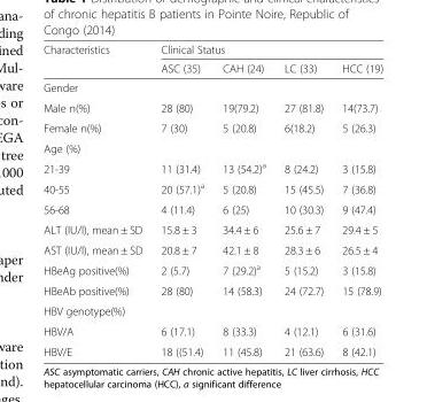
<table><thead><tr><td rowspan="2">Characteristics</td><td colspan="4">Clinical Status</td></tr><tr><td>ASC (35)</td><td>CAH (24)</td><td>LC (33)</td><td>HCC (19)</td></tr></thead><tbody><tr><td colspan="5">Gender</td></tr><tr><td>Male n(%)</td><td>28 (80)</td><td>19(79.2)</td><td>27 (81.8)</td><td>14(73.7)</td></tr><tr><td>Female n(%)</td><td>7 (30)</td><td>5 (20.8)</td><td>6(18.2)</td><td>5 (26.3)</td></tr><tr><td colspan="5">Age (%)</td></tr><tr><td>21-39</td><td>11 (31.4)</td><td>13 (54.2)<sup>a</sup></td><td>8 (24.2)</td><td>3 (15.8)</td></tr><tr><td>40-55</td><td>20 (57.1)<sup>a</sup></td><td>5 (20.8)</td><td>15 (45.5)</td><td>7 (36.8)</td></tr><tr><td>56-68</td><td>4 (11.4)</td><td>6 (25)</td><td>10 (30.3)</td><td>9 (47.4)</td></tr><tr><td>ALT (IU/l), mean ± SD</td><td>15.8 ± 3</td><td>34.4 ± 6</td><td>25.6 ± 7</td><td>29.4 ± 5</td></tr><tr><td>AST (IU/l), mean ± SD</td><td>20.8 ± 7</td><td>42.1 ± 8</td><td>28.3 ± 6</td><td>26.5 ± 4</td></tr><tr><td>HBeAg positive(%)</td><td>2 (5.7)</td><td>7 (29.2)<sup>a</sup></td><td>5 (15.2)</td><td>3 (15.8)</td></tr><tr><td>HBeAb positive(%)</td><td>28 (80)</td><td>14 (58.3)</td><td>24 (72.7)</td><td>15 (78.9)</td></tr><tr><td colspan="5">HBV genotype(%)</td></tr><tr><td>HBV/A</td><td>6 (17.1)</td><td>8 (33.3)</td><td>4 (12.1)</td><td>6 (31.6)</td></tr><tr><td>HBV/E</td><td>18 ((51.4)</td><td>11 (45.8)</td><td>21 (63.6)</td><td>8 (42.1)</td></tr></tbody></table>